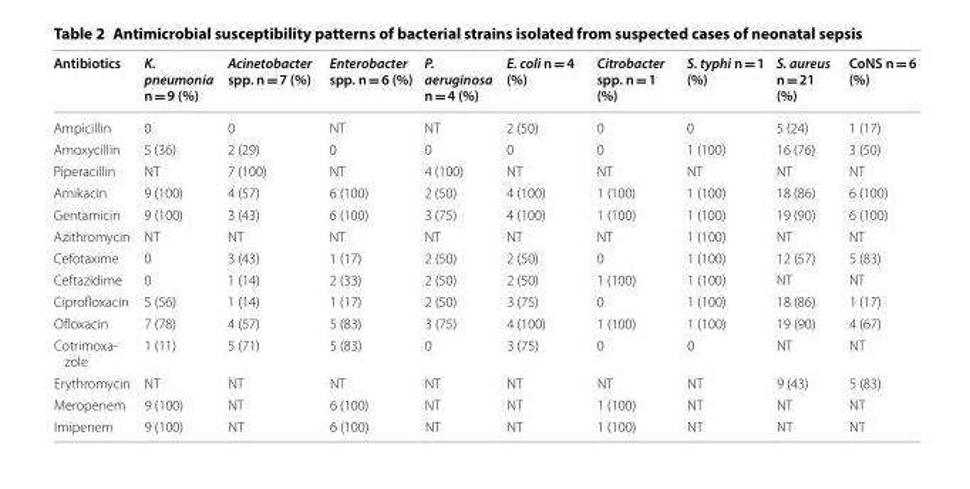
<table><thead><tr><td>Antibiotics</td><td>K. pneumonia n = 9 (%)</td><td>Acinetobacter spp. n = 7 (%)</td><td>Enterobacter spp. n = 6 (%)</td><td>P. aeruginosa n = 4 (%)</td><td>E. coli n = 4 (%)</td><td>Citrobacter spp. n = 1 (%)</td><td>S. typhi n = 1 (%)</td><td>S. aureus n = 21 (%)</td><td>CoNS n = 6 (%)</td></tr></thead><tbody><tr><td>Ampicillin</td><td>0</td><td>0</td><td>NT</td><td>NT</td><td>2 (50)</td><td>0</td><td>0</td><td>5 (24)</td><td>1 (17)</td></tr><tr><td>Amoxycillin</td><td>5 (36)</td><td>2 (29)</td><td>0</td><td>0</td><td>0</td><td>0</td><td>1 (100)</td><td>16 (76)</td><td>3 (50)</td></tr><tr><td>Piperacillin</td><td>NT</td><td>7 (100)</td><td>NT</td><td>4 (100)</td><td>NT</td><td>NT</td><td>NT</td><td>NT</td><td>NT</td></tr><tr><td>Amikacin</td><td>9 (100)</td><td>4 (57)</td><td>6 (100)</td><td>2 (50)</td><td>4 (100)</td><td>1 (100)</td><td>1 (100)</td><td>18 (86)</td><td>6 (100)</td></tr><tr><td>Gentamicin</td><td>9 (100)</td><td>3 (43)</td><td>6 (100)</td><td>3 (75)</td><td>4 (100)</td><td>1 (100)</td><td>1 (100)</td><td>19 (90)</td><td>6 (100)</td></tr><tr><td>Azithromycin</td><td>NT</td><td>NT</td><td>NT</td><td>NT</td><td>NT</td><td>NT</td><td>1 (100)</td><td>NT</td><td>NT</td></tr><tr><td>Cefotaxime</td><td>0</td><td>3 (43)</td><td>1 (17)</td><td>2 (50)</td><td>2 (50)</td><td>0</td><td>1 (100)</td><td>12 (57)</td><td>5 (83)</td></tr><tr><td>Ceftazidime</td><td>0</td><td>1 (14)</td><td>2 (33)</td><td>2 (50)</td><td>2 (50)</td><td>1 (100)</td><td>1 (100)</td><td>NT</td><td>NT</td></tr><tr><td>Ciprofloxacin</td><td>5 (56)</td><td>1 (14)</td><td>1 (17)</td><td>2 (50)</td><td>3 (75)</td><td>0</td><td>1 (100)</td><td>18 (86)</td><td>1 (17)</td></tr><tr><td>Ofloxacin</td><td>7 (78)</td><td>4 (57)</td><td>5 (83)</td><td>3 (75)</td><td>4 (100)</td><td>1 (100)</td><td>1 (100)</td><td>19 (90)</td><td>4 (67)</td></tr><tr><td>Cotrimoxa- zole</td><td>1 (11)</td><td>5 (71)</td><td>5 (83)</td><td>0</td><td>3 (75)</td><td>0</td><td>0</td><td>NT</td><td>NT</td></tr><tr><td>Erythromycin</td><td>NT</td><td>NT</td><td>NT</td><td>NT</td><td>NT</td><td>NT</td><td>NT</td><td>9 (43)</td><td>5 (83)</td></tr><tr><td>Meropenem</td><td>9 (100)</td><td>NT</td><td>6 (100)</td><td>NT</td><td>NT</td><td>1 (100)</td><td>NT</td><td>NT</td><td>NT</td></tr><tr><td>Imipenem</td><td>9 (100)</td><td>NT</td><td>6 (100)</td><td>NT</td><td>NT</td><td>1 (100)</td><td>NT</td><td>NT</td><td>NT</td></tr></tbody></table>